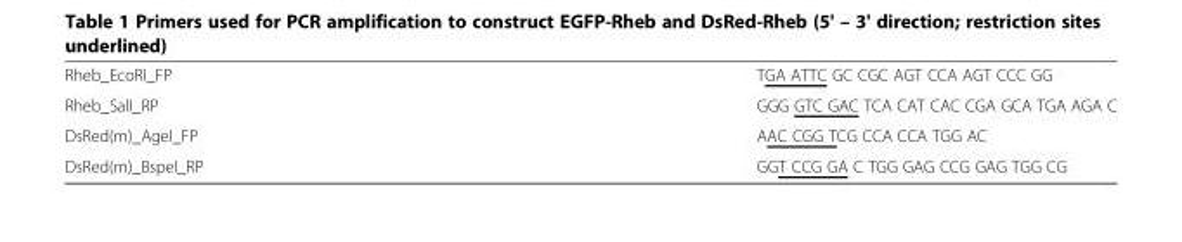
<table><tbody><tr><td>Rheb_EcoRI_FP</td><td>TGA ATTC GC CGC AGT CCA AGT CCC GG</td></tr><tr><td>Rheb_SalI_RP</td><td>GGG GTC GAC TCA CAT CAC CGA GCA TGA AGA C</td></tr><tr><td>DsRed(m)_AgeI_FP</td><td>AAC CGG TCG CCA CCA TGG AC</td></tr><tr><td>DsRed(m)_BspeI_RP</td><td>GGT CCG GA C TGG GAG CCG GAG TGG CG</td></tr></tbody></table>